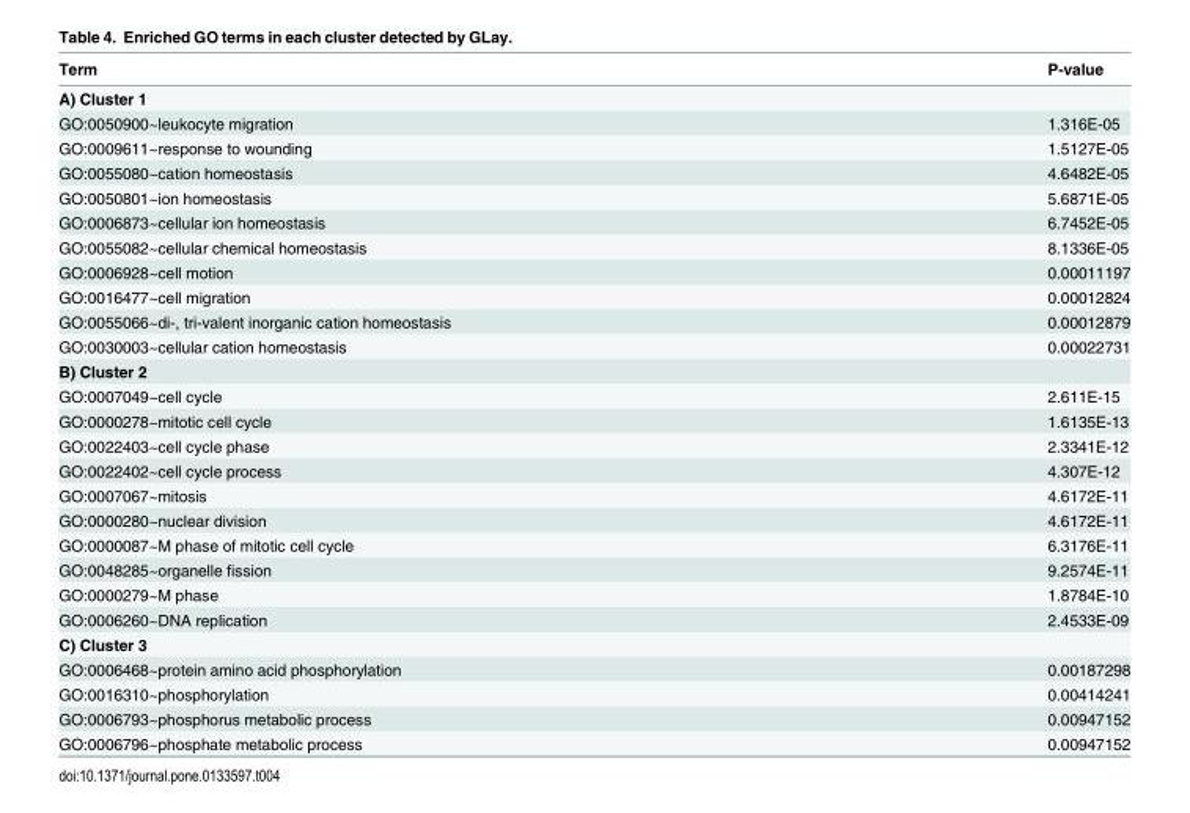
<table><thead><tr><td>Term</td><td>P-value</td></tr></thead><tbody><tr><td colspan="2">A) Cluster 1</td></tr><tr><td>GO:0050900~leukocyte migration</td><td>1.316E-05</td></tr><tr><td>GO:0009611~response to wounding</td><td>1.5127E-05</td></tr><tr><td>GO:0055080~cation homeostasis</td><td>4.6482E-05</td></tr><tr><td>GO:0050801~ion homeostasis</td><td>5.6871E-05</td></tr><tr><td>GO:0006873~cellular ion homeostasis</td><td>6.7452E-05</td></tr><tr><td>GO:0055082~cellular chemical homeostasis</td><td>8.1336E-05</td></tr><tr><td>GO:0006928~cell motion</td><td>0.00011197</td></tr><tr><td>GO:0016477~cell migration</td><td>0.00012824</td></tr><tr><td>GO:0055066~di-, tri-valent inorganic cation homeostasis</td><td>0.00012879</td></tr><tr><td>GO:0030003~cellular cation homeostasis</td><td>0.00022731</td></tr><tr><td colspan="2">B) Cluster 2</td></tr><tr><td>GO:0007049~cell cycle</td><td>2.611E-15</td></tr><tr><td>GO:0000278~mitotic cell cycle</td><td>1.6135E-13</td></tr><tr><td>GO:0022403~cell cycle phase</td><td>2.3341E-12</td></tr><tr><td>GO:0022402~cell cycle process</td><td>4.307E-12</td></tr><tr><td>GO:0007067~mitosis</td><td>4.6172E-11</td></tr><tr><td>GO:0000280~nuclear division</td><td>4.6172E-11</td></tr><tr><td>GO:0000087~M phase of mitotic cell cycle</td><td>6.3176E-11</td></tr><tr><td>GO:0048285~organelle fission</td><td>9.2574E-11</td></tr><tr><td>GO:0000279~M phase</td><td>1.8784E-10</td></tr><tr><td>GO:0006260~DNA replication</td><td>2.4533E-09</td></tr><tr><td colspan="2">C) Cluster 3</td></tr><tr><td>GO:0006468~protein amino acid phosphorylation</td><td>0.00187298</td></tr><tr><td>GO:0016310~phosphorylation</td><td>0.00414241</td></tr><tr><td>GO:0006793~phosphorus metabolic process</td><td>0.00947152</td></tr><tr><td>GO:0006796~phosphate metabolic process</td><td>0.00947152</td></tr></tbody></table>